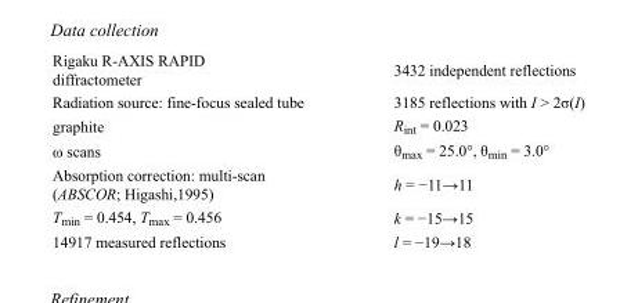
<table><tbody><tr><td>Rigaku R-AXIS RAPID diffractometer</td><td>3432 independent reflections</td></tr><tr><td>Radiation source: fine-focus sealed tube</td><td>3185 reflections with I &gt; 2σ(I)</td></tr><tr><td>graphite</td><td>R<sub>int</sub> = 0.023</td></tr><tr><td>ω scans</td><td>θ<sub>max</sub> = 25.0°, θ<sub>min</sub> = 3.0°</td></tr><tr><td>Absorption correction: multi-scan (ABSCOR; Higashi,1995)</td><td>h = −11→11</td></tr><tr><td>T<sub>min</sub> = 0.454, T<sub>max</sub> = 0.456</td><td>k = −15→15</td></tr><tr><td>14917 measured reflections</td><td>l = −19→18</td></tr></tbody></table>